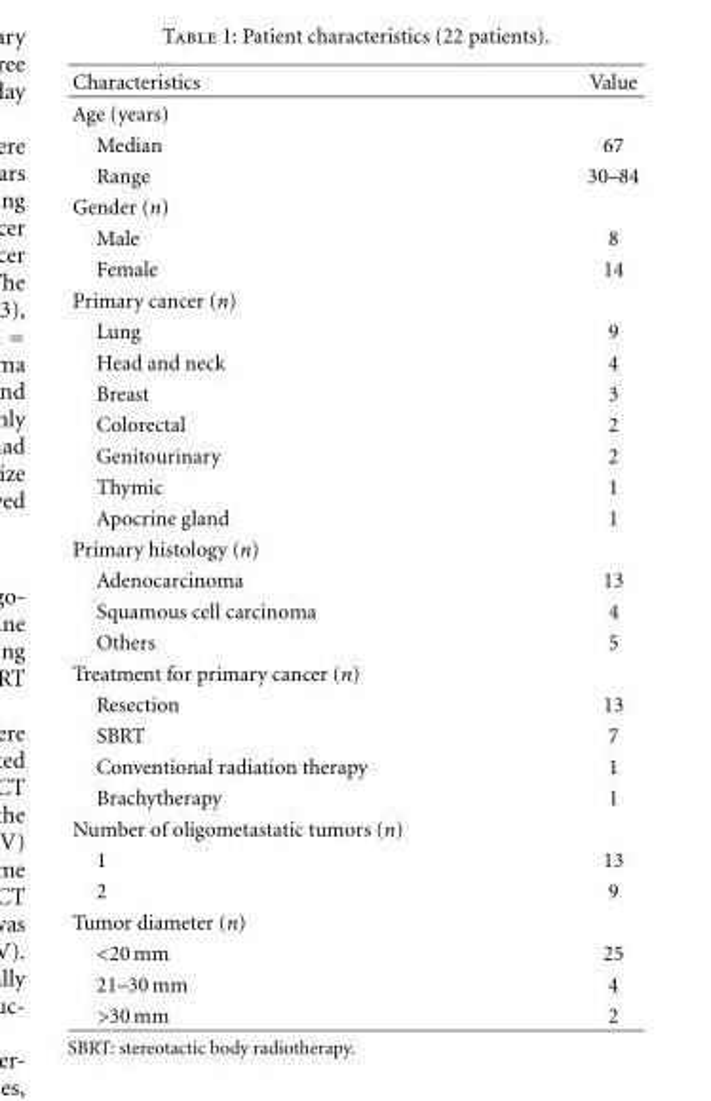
<table><thead><tr><td>Characteristics</td><td>Value</td></tr></thead><tbody><tr><td colspan="2">Age (years)</td></tr><tr><td>Median</td><td>67</td></tr><tr><td>Range</td><td>30–84</td></tr><tr><td colspan="2">Gender (n)</td></tr><tr><td>Male</td><td>8</td></tr><tr><td>Female</td><td>14</td></tr><tr><td colspan="2">Primary cancer (n)</td></tr><tr><td>Lung</td><td>9</td></tr><tr><td>Head and neck</td><td>4</td></tr><tr><td>Breast</td><td>3</td></tr><tr><td>Colorectal</td><td>2</td></tr><tr><td>Genitourinary</td><td>2</td></tr><tr><td>Thymic</td><td>1</td></tr><tr><td>Apocrine gland</td><td>1</td></tr><tr><td colspan="2">Primary histology (n)</td></tr><tr><td>Adenocarcinoma</td><td>13</td></tr><tr><td>Squamous cell carcinoma</td><td>4</td></tr><tr><td>Others</td><td>5</td></tr><tr><td colspan="2">Treatment for primary cancer (n)</td></tr><tr><td>Resection</td><td>13</td></tr><tr><td>SBRT</td><td>7</td></tr><tr><td>Conventional radiation therapy</td><td>1</td></tr><tr><td>Brachytherapy</td><td>1</td></tr><tr><td colspan="2">Number of oligometastatic tumors (n)</td></tr><tr><td>1</td><td>13</td></tr><tr><td>2</td><td>9</td></tr><tr><td colspan="2">Tumor diameter (n)</td></tr><tr><td>&lt;20 mm</td><td>25</td></tr><tr><td>21–30 mm</td><td>4</td></tr><tr><td>&gt;30 mm</td><td>2</td></tr></tbody></table>